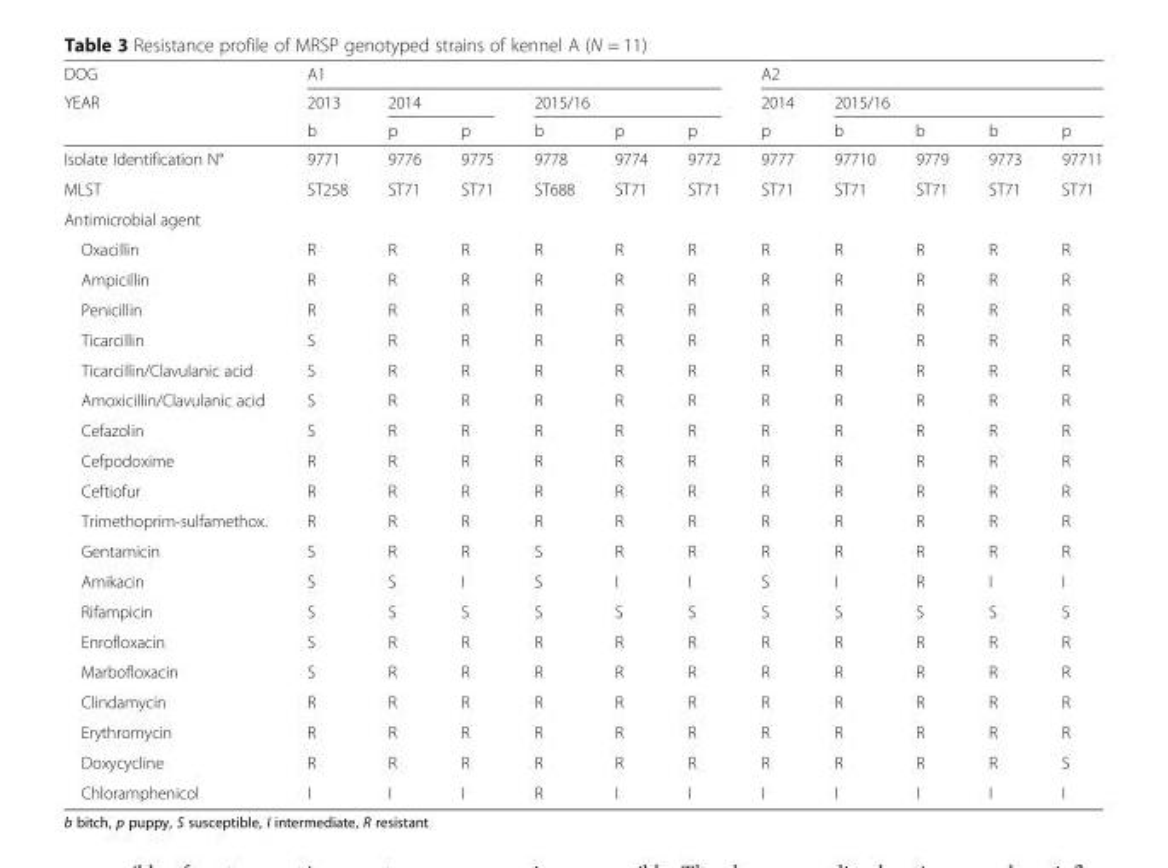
<table><thead><tr><td rowspan="3">DOG YEAR</td><td colspan="6">A1</td><td colspan="5">A2</td></tr><tr><td rowspan="2">2013 b</td><td colspan="2">2014</td><td colspan="3">2015/16</td><td rowspan="2">2014 p</td><td colspan="4">2015/16</td></tr><tr><td>p</td><td>p</td><td>b</td><td>p</td><td>p</td><td>b</td><td>b</td><td>b</td><td>p</td></tr></thead><tbody><tr><td>Isolate Identification N°</td><td>9771</td><td>9776</td><td>9775</td><td>9778</td><td>9774</td><td>9772</td><td>9777</td><td>97710</td><td>9779</td><td>9773</td><td>97711</td></tr><tr><td>MLST</td><td>ST258</td><td>ST71</td><td>ST71</td><td>ST688</td><td>ST71</td><td>ST71</td><td>ST71</td><td>ST71</td><td>ST71</td><td>ST71</td><td>ST71</td></tr><tr><td colspan="12">Antimicrobial agent</td></tr><tr><td>Oxacillin</td><td>R</td><td>R</td><td>R</td><td>R</td><td>R</td><td>R</td><td>R</td><td>R</td><td>R</td><td>R</td><td>R</td></tr><tr><td>Ampicillin</td><td>R</td><td>R</td><td>R</td><td>R</td><td>R</td><td>R</td><td>R</td><td>R</td><td>R</td><td>R</td><td>R</td></tr><tr><td>Penicillin</td><td>R</td><td>R</td><td>R</td><td>R</td><td>R</td><td>R</td><td>R</td><td>R</td><td>R</td><td>R</td><td>R</td></tr><tr><td>Ticarcillin</td><td>S</td><td>R</td><td>R</td><td>R</td><td>R</td><td>R</td><td>R</td><td>R</td><td>R</td><td>R</td><td>R</td></tr><tr><td>Ticarcillin/Clavulanic acid</td><td>S</td><td>R</td><td>R</td><td>R</td><td>R</td><td>R</td><td>R</td><td>R</td><td>R</td><td>R</td><td>R</td></tr><tr><td>Amoxicillin/Clavulanic acid</td><td>S</td><td>R</td><td>R</td><td>R</td><td>R</td><td>R</td><td>R</td><td>R</td><td>R</td><td>R</td><td>R</td></tr><tr><td>Cefazolin</td><td>S</td><td>R</td><td>R</td><td>R</td><td>R</td><td>R</td><td>R</td><td>R</td><td>R</td><td>R</td><td>R</td></tr><tr><td>Cefpodoxime</td><td>R</td><td>R</td><td>R</td><td>R</td><td>R</td><td>R</td><td>R</td><td>R</td><td>R</td><td>R</td><td>R</td></tr><tr><td>Ceftiofur</td><td>R</td><td>R</td><td>R</td><td>R</td><td>R</td><td>R</td><td>R</td><td>R</td><td>R</td><td>R</td><td>R</td></tr><tr><td>Trimethoprim-sulfamethox.</td><td>R</td><td>R</td><td>R</td><td>R</td><td>R</td><td>R</td><td>R</td><td>R</td><td>R</td><td>R</td><td>R</td></tr><tr><td>Gentamicin</td><td>S</td><td>R</td><td>R</td><td>S</td><td>R</td><td>R</td><td>R</td><td>R</td><td>R</td><td>R</td><td>R</td></tr><tr><td>Amikacin</td><td>S</td><td>S</td><td>I</td><td>S</td><td>I</td><td>I</td><td>S</td><td>I</td><td>R</td><td>I</td><td>I</td></tr><tr><td>Rifampicin</td><td>S</td><td>S</td><td>S</td><td>S</td><td>S</td><td>S</td><td>S</td><td>S</td><td>S</td><td>S</td><td>S</td></tr><tr><td>Enrofloxacin</td><td>S</td><td>R</td><td>R</td><td>R</td><td>R</td><td>R</td><td>R</td><td>R</td><td>R</td><td>R</td><td>R</td></tr><tr><td>Marbofloxacin</td><td>S</td><td>R</td><td>R</td><td>R</td><td>R</td><td>R</td><td>R</td><td>R</td><td>R</td><td>R</td><td>R</td></tr><tr><td>Clindamycin</td><td>R</td><td>R</td><td>R</td><td>R</td><td>R</td><td>R</td><td>R</td><td>R</td><td>R</td><td>R</td><td>R</td></tr><tr><td>Erythromycin</td><td>R</td><td>R</td><td>R</td><td>R</td><td>R</td><td>R</td><td>R</td><td>R</td><td>R</td><td>R</td><td>R</td></tr><tr><td>Doxycycline</td><td>R</td><td>R</td><td>R</td><td>R</td><td>R</td><td>R</td><td>R</td><td>R</td><td>R</td><td>R</td><td>S</td></tr><tr><td>Chloramphenicol</td><td>I</td><td>I</td><td>I</td><td>R</td><td>I</td><td>I</td><td>I</td><td>I</td><td>I</td><td>I</td><td>I</td></tr></tbody></table>